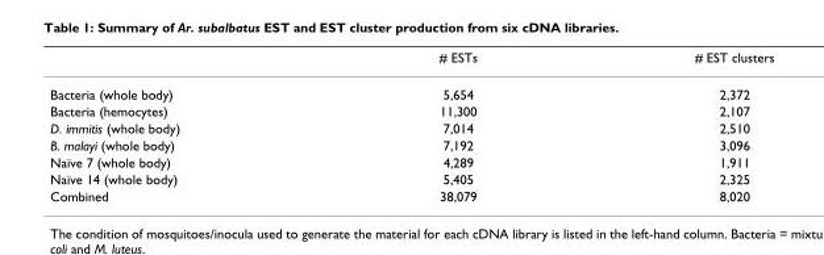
<table><thead><tr><td></td><td># ESTs</td><td># EST clusters</td></tr></thead><tbody><tr><td>Bacteria (whole body)</td><td>5,654</td><td>2,372</td></tr><tr><td>Bacteria (hemocytes)</td><td>11,300</td><td>2,107</td></tr><tr><td>D. immitis (whole body)</td><td>7,014</td><td>2,510</td></tr><tr><td>B. malayi (whole body)</td><td>7,192</td><td>3,096</td></tr><tr><td>Naïve 7 (whole body)</td><td>4,289</td><td>1,911</td></tr><tr><td>Naïve 14 (whole body)</td><td>5,405</td><td>2,325</td></tr><tr><td>Combined</td><td>38,079</td><td>8,020</td></tr></tbody></table>